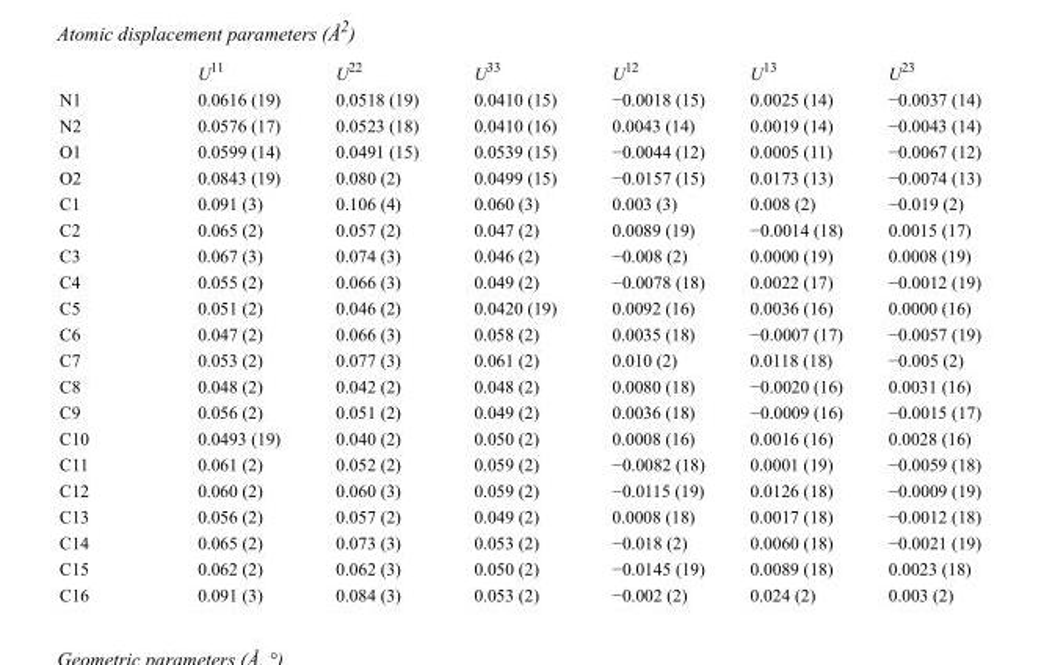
<table><thead><tr><td></td><td>U<sup>11</sup></td><td>U<sup>22</sup></td><td>U<sup>33</sup></td><td>U<sup>12</sup></td><td>U<sup>13</sup></td><td>U<sup>23</sup></td></tr></thead><tbody><tr><td>N1</td><td>0.0616 (19)</td><td>0.0518 (19)</td><td>0.0410 (15)</td><td>−0.0018 (15)</td><td>0.0025 (14)</td><td>−0.0037 (14)</td></tr><tr><td>N2</td><td>0.0576 (17)</td><td>0.0523 (18)</td><td>0.0410 (16)</td><td>0.0043 (14)</td><td>0.0019 (14)</td><td>−0.0043 (14)</td></tr><tr><td>O1</td><td>0.0599 (14)</td><td>0.0491 (15)</td><td>0.0539 (15)</td><td>−0.0044 (12)</td><td>0.0005 (11)</td><td>−0.0067 (12)</td></tr><tr><td>O2</td><td>0.0843 (19)</td><td>0.080 (2)</td><td>0.0499 (15)</td><td>−0.0157 (15)</td><td>0.0173 (13)</td><td>−0.0074 (13)</td></tr><tr><td>C1</td><td>0.091 (3)</td><td>0.106 (4)</td><td>0.060 (3)</td><td>0.003 (3)</td><td>0.008 (2)</td><td>−0.019 (2)</td></tr><tr><td>C2</td><td>0.065 (2)</td><td>0.057 (2)</td><td>0.047 (2)</td><td>0.0089 (19)</td><td>−0.0014 (18)</td><td>0.0015 (17)</td></tr><tr><td>C3</td><td>0.067 (3)</td><td>0.074 (3)</td><td>0.046 (2)</td><td>−0.008 (2)</td><td>0.0000 (19)</td><td>0.0008 (19)</td></tr><tr><td>C4</td><td>0.055 (2)</td><td>0.066 (3)</td><td>0.049 (2)</td><td>−0.0078 (18)</td><td>0.0022 (17)</td><td>−0.0012 (19)</td></tr><tr><td>C5</td><td>0.051 (2)</td><td>0.046 (2)</td><td>0.0420 (19)</td><td>0.0092 (16)</td><td>0.0036 (16)</td><td>0.0000 (16)</td></tr><tr><td>C6</td><td>0.047 (2)</td><td>0.066 (3)</td><td>0.058 (2)</td><td>0.0035 (18)</td><td>−0.0007 (17)</td><td>−0.0057 (19)</td></tr><tr><td>C7</td><td>0.053 (2)</td><td>0.077 (3)</td><td>0.061 (2)</td><td>0.010 (2)</td><td>0.0118 (18)</td><td>−0.005 (2)</td></tr><tr><td>C8</td><td>0.048 (2)</td><td>0.042 (2)</td><td>0.048 (2)</td><td>0.0080 (18)</td><td>−0.0020 (16)</td><td>0.0031 (16)</td></tr><tr><td>C9</td><td>0.056 (2)</td><td>0.051 (2)</td><td>0.049 (2)</td><td>0.0036 (18)</td><td>−0.0009 (16)</td><td>−0.0015 (17)</td></tr><tr><td>C10</td><td>0.0493 (19)</td><td>0.040 (2)</td><td>0.050 (2)</td><td>0.0008 (16)</td><td>0.0016 (16)</td><td>0.0028 (16)</td></tr><tr><td>C11</td><td>0.061 (2)</td><td>0.052 (2)</td><td>0.059 (2)</td><td>−0.0082 (18)</td><td>0.0001 (19)</td><td>−0.0059 (18)</td></tr><tr><td>C12</td><td>0.060 (2)</td><td>0.060 (3)</td><td>0.059 (2)</td><td>−0.0115 (19)</td><td>0.0126 (18)</td><td>−0.0009 (19)</td></tr><tr><td>C13</td><td>0.056 (2)</td><td>0.057 (2)</td><td>0.049 (2)</td><td>0.0008 (18)</td><td>0.0017 (18)</td><td>−0.0012 (18)</td></tr><tr><td>C14</td><td>0.065 (2)</td><td>0.073 (3)</td><td>0.053 (2)</td><td>−0.018 (2)</td><td>0.0060 (18)</td><td>−0.0021 (19)</td></tr><tr><td>C15</td><td>0.062 (2)</td><td>0.062 (3)</td><td>0.050 (2)</td><td>−0.0145 (19)</td><td>0.0089 (18)</td><td>0.0023 (18)</td></tr><tr><td>C16</td><td>0.091 (3)</td><td>0.084 (3)</td><td>0.053 (2)</td><td>−0.002 (2)</td><td>0.024 (2)</td><td>0.003 (2)</td></tr></tbody></table>